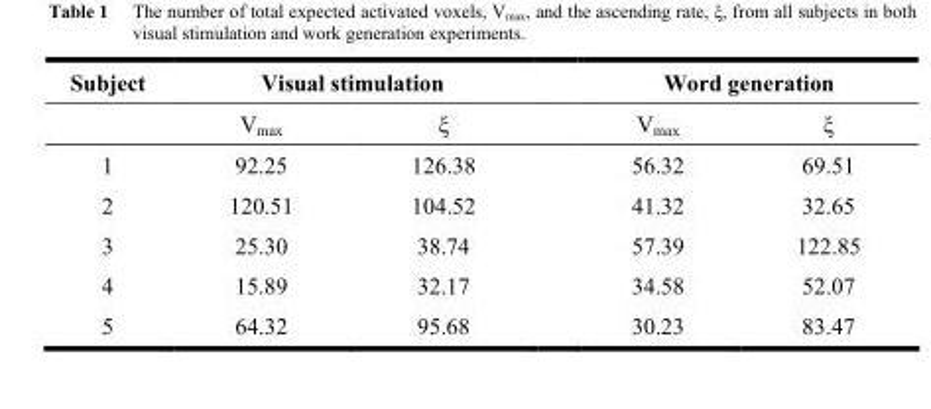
<table><thead><tr><td rowspan="2">Subject</td><td colspan="2">Visual stimulation</td><td colspan="2">Word generation</td></tr><tr><td>V<sub>max</sub></td><td>ξ</td><td>V<sub>max</sub></td><td>ξ</td></tr></thead><tbody><tr><td>1</td><td>92.25</td><td>126.38</td><td>56.32</td><td>69.51</td></tr><tr><td>2</td><td>120.51</td><td>104.52</td><td>41.32</td><td>32.65</td></tr><tr><td>3</td><td>25.30</td><td>38.74</td><td>57.39</td><td>122.85</td></tr><tr><td>4</td><td>15.89</td><td>32.17</td><td>34.58</td><td>52.07</td></tr><tr><td>5</td><td>64.32</td><td>95.68</td><td>30.23</td><td>83.47</td></tr></tbody></table>